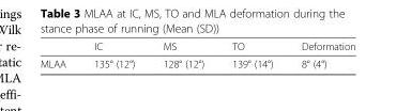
<table><thead><tr><td></td><td>IC</td><td>MS</td><td>TO</td><td>Deformation</td></tr></thead><tbody><tr><td>MLAA</td><td>135° (12°)</td><td>128° (12°)</td><td>139° (14°)</td><td>8° (4°)</td></tr></tbody></table>